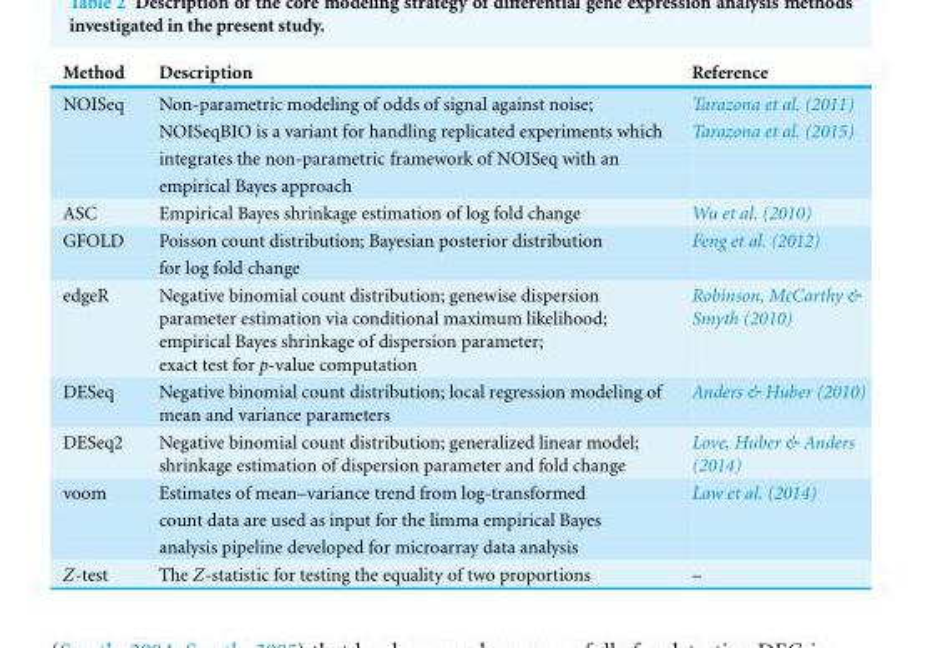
<table><thead><tr><td>Method</td><td>Description</td><td>Reference</td></tr></thead><tbody><tr><td rowspan="4">NOISeq</td><td>Non-parametric modeling of odds of signal against noise;</td><td>Tarazona et al. (2011)</td></tr><tr><td>NOISeqBIO is a variant for handling replicated experiments which</td><td>Tarazona et al. (2015)</td></tr><tr><td>integrates the non-parametric framework of NOISeq with an</td><td></td></tr><tr><td>empirical Bayes approach</td><td></td></tr><tr><td>ASC</td><td>Empirical Bayes shrinkage estimation of log fold change</td><td>Wu et al. (2010)</td></tr><tr><td rowspan="2">GFOLD</td><td>Poisson count distribution; Bayesian posterior distribution</td><td>Feng et al. (2012)</td></tr><tr><td>for log fold change</td><td></td></tr><tr><td>edgeR</td><td>Negative binomial count distribution; genewise dispersion parameter estimation via conditional maximum likelihood; empirical Bayes shrinkage of dispersion parameter; exact test for p-value computation</td><td>Robinson, McCarthy &amp; Smyth (2010)</td></tr><tr><td>DESeq</td><td>Negative binomial count distribution; local regression modeling of mean and variance parameters</td><td>Anders &amp; Huber (2010)</td></tr><tr><td>DESeq2</td><td>Negative binomial count distribution; generalized linear model; shrinkage estimation of dispersion parameter and fold change</td><td>Love, Huber &amp; Anders (2014)</td></tr><tr><td rowspan="3">voom</td><td>Estimates of mean–variance trend from log-transformed</td><td>Law et al. (2014)</td></tr><tr><td>count data are used as input for the limma empirical Bayes</td><td></td></tr><tr><td>analysis pipeline developed for microarray data analysis</td><td></td></tr><tr><td>Z-test</td><td>The Z-statistic for testing the equality of two proportions</td><td>–</td></tr></tbody></table>